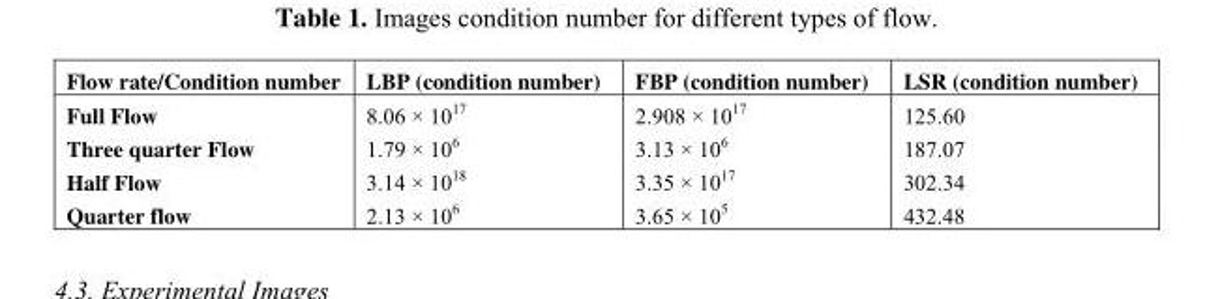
<table><thead><tr><td>Flow rate/Condition number</td><td>LBP (condition number)</td><td>FBP (condition number)</td><td>LSR (condition number)</td></tr></thead><tbody><tr><td>Full Flow</td><td>8.06 × 10<sup>17</sup></td><td>2.908 × 10<sup>17</sup></td><td>125.60</td></tr><tr><td>Three quarter Flow</td><td>1.79 × 10<sup>6</sup></td><td>3.13 × 10<sup>6</sup></td><td>187.07</td></tr><tr><td>Half Flow</td><td>3.14 × 10<sup>18</sup></td><td>3.35 × 10<sup>17</sup></td><td>302.34</td></tr><tr><td>Quarter flow</td><td>2.13 × 10<sup>6</sup></td><td>3.65 × 10<sup>5</sup></td><td>432.48</td></tr></tbody></table>